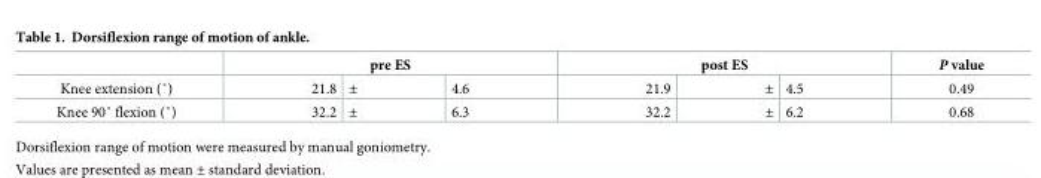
<table><thead><tr><td rowspan="2">Knee extension (˚)</td><td colspan="3">pre ES</td><td colspan="3">post ES</td><td rowspan="2">P value 0.49</td></tr><tr><td>21.8</td><td>±</td><td>4.6</td><td>21.9</td><td>±</td><td>4.5</td></tr></thead><tbody><tr><td>Knee 90˚ flexion (˚)</td><td>32.2</td><td>±</td><td>6.3</td><td>32.2</td><td>±</td><td>6.2</td><td>0.68</td></tr></tbody></table>